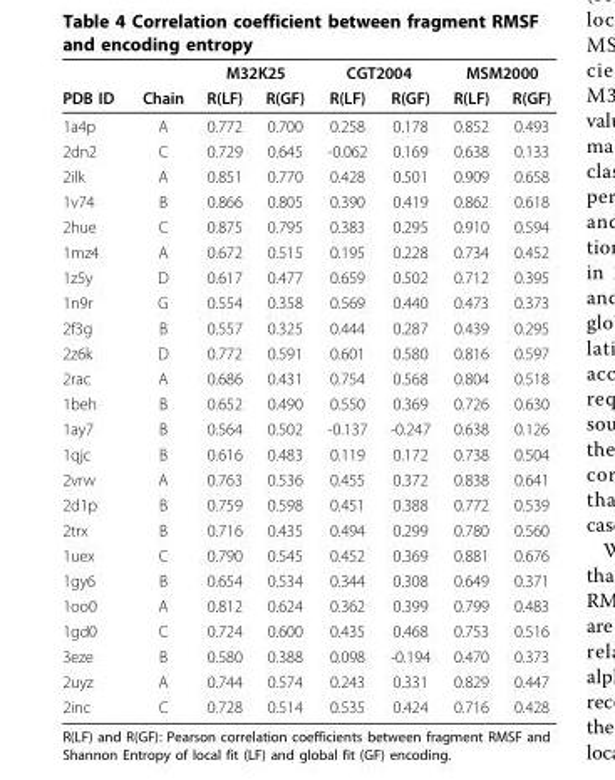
<table><thead><tr><td rowspan="2">PDB ID</td><td rowspan="2">Chain</td><td colspan="2">M32K25</td><td colspan="2">CGT2004</td><td colspan="2">MSM2000</td></tr><tr><td>R(LF)</td><td>R(GF)</td><td>R(LF)</td><td>R(GF)</td><td>R(LF)</td><td>R(GF)</td></tr></thead><tbody><tr><td>1a4p</td><td>A</td><td>0.772</td><td>0.700</td><td>0.258</td><td>0.178</td><td>0.852</td><td>0.493</td></tr><tr><td>2dn2</td><td>C</td><td>0.729</td><td>0.645</td><td>-0.062</td><td>0.169</td><td>0.638</td><td>0.133</td></tr><tr><td>2ilk</td><td>A</td><td>0.851</td><td>0.770</td><td>0.428</td><td>0.501</td><td>0.909</td><td>0.658</td></tr><tr><td>1v74</td><td>B</td><td>0.866</td><td>0.805</td><td>0.390</td><td>0.419</td><td>0.862</td><td>0.618</td></tr><tr><td>2hue</td><td>C</td><td>0.875</td><td>0.795</td><td>0.383</td><td>0.295</td><td>0.910</td><td>0.594</td></tr><tr><td>1mz4</td><td>A</td><td>0.672</td><td>0.515</td><td>0.195</td><td>0.228</td><td>0.734</td><td>0.452</td></tr><tr><td>1z5y</td><td>D</td><td>0.617</td><td>0.477</td><td>0.659</td><td>0.502</td><td>0.712</td><td>0.395</td></tr><tr><td>1n9r</td><td>G</td><td>0.554</td><td>0.358</td><td>0.569</td><td>0.440</td><td>0.473</td><td>0.373</td></tr><tr><td>2f3g</td><td>B</td><td>0.557</td><td>0.325</td><td>0.444</td><td>0.287</td><td>0.439</td><td>0.295</td></tr><tr><td>2z6k</td><td>D</td><td>0.772</td><td>0.591</td><td>0.601</td><td>0.580</td><td>0.816</td><td>0.597</td></tr><tr><td>2rac</td><td>A</td><td>0.686</td><td>0.431</td><td>0.754</td><td>0.568</td><td>0.804</td><td>0.518</td></tr><tr><td>1beh</td><td>B</td><td>0.652</td><td>0.490</td><td>0.550</td><td>0.369</td><td>0.726</td><td>0.630</td></tr><tr><td>1ay7</td><td>B</td><td>0.564</td><td>0.502</td><td>-0.137</td><td>-0.247</td><td>0.638</td><td>0.126</td></tr><tr><td>1qjc</td><td>B</td><td>0.616</td><td>0.483</td><td>0.119</td><td>0.172</td><td>0.738</td><td>0.504</td></tr><tr><td>2vrw</td><td>A</td><td>0.763</td><td>0.536</td><td>0.455</td><td>0.372</td><td>0.838</td><td>0.641</td></tr><tr><td>2d1p</td><td>B</td><td>0.759</td><td>0.598</td><td>0.451</td><td>0.388</td><td>0.772</td><td>0.539</td></tr><tr><td>2trx</td><td>B</td><td>0.716</td><td>0.435</td><td>0.494</td><td>0.299</td><td>0.780</td><td>0.560</td></tr><tr><td>1uex</td><td>C</td><td>0.790</td><td>0.545</td><td>0.452</td><td>0.369</td><td>0.881</td><td>0.676</td></tr><tr><td>1gy6</td><td>B</td><td>0.654</td><td>0.534</td><td>0.344</td><td>0.308</td><td>0.649</td><td>0.371</td></tr><tr><td>1oo0</td><td>A</td><td>0.812</td><td>0.624</td><td>0.362</td><td>0.399</td><td>0.799</td><td>0.483</td></tr><tr><td>1gd0</td><td>C</td><td>0.724</td><td>0.600</td><td>0.435</td><td>0.468</td><td>0.753</td><td>0.516</td></tr><tr><td>3eze</td><td>B</td><td>0.580</td><td>0.388</td><td>0.098</td><td>-0.194</td><td>0.470</td><td>0.373</td></tr><tr><td>2uyz</td><td>A</td><td>0.744</td><td>0.574</td><td>0.243</td><td>0.331</td><td>0.829</td><td>0.447</td></tr><tr><td>2inc</td><td>C</td><td>0.728</td><td>0.514</td><td>0.535</td><td>0.424</td><td>0.716</td><td>0.428</td></tr></tbody></table>